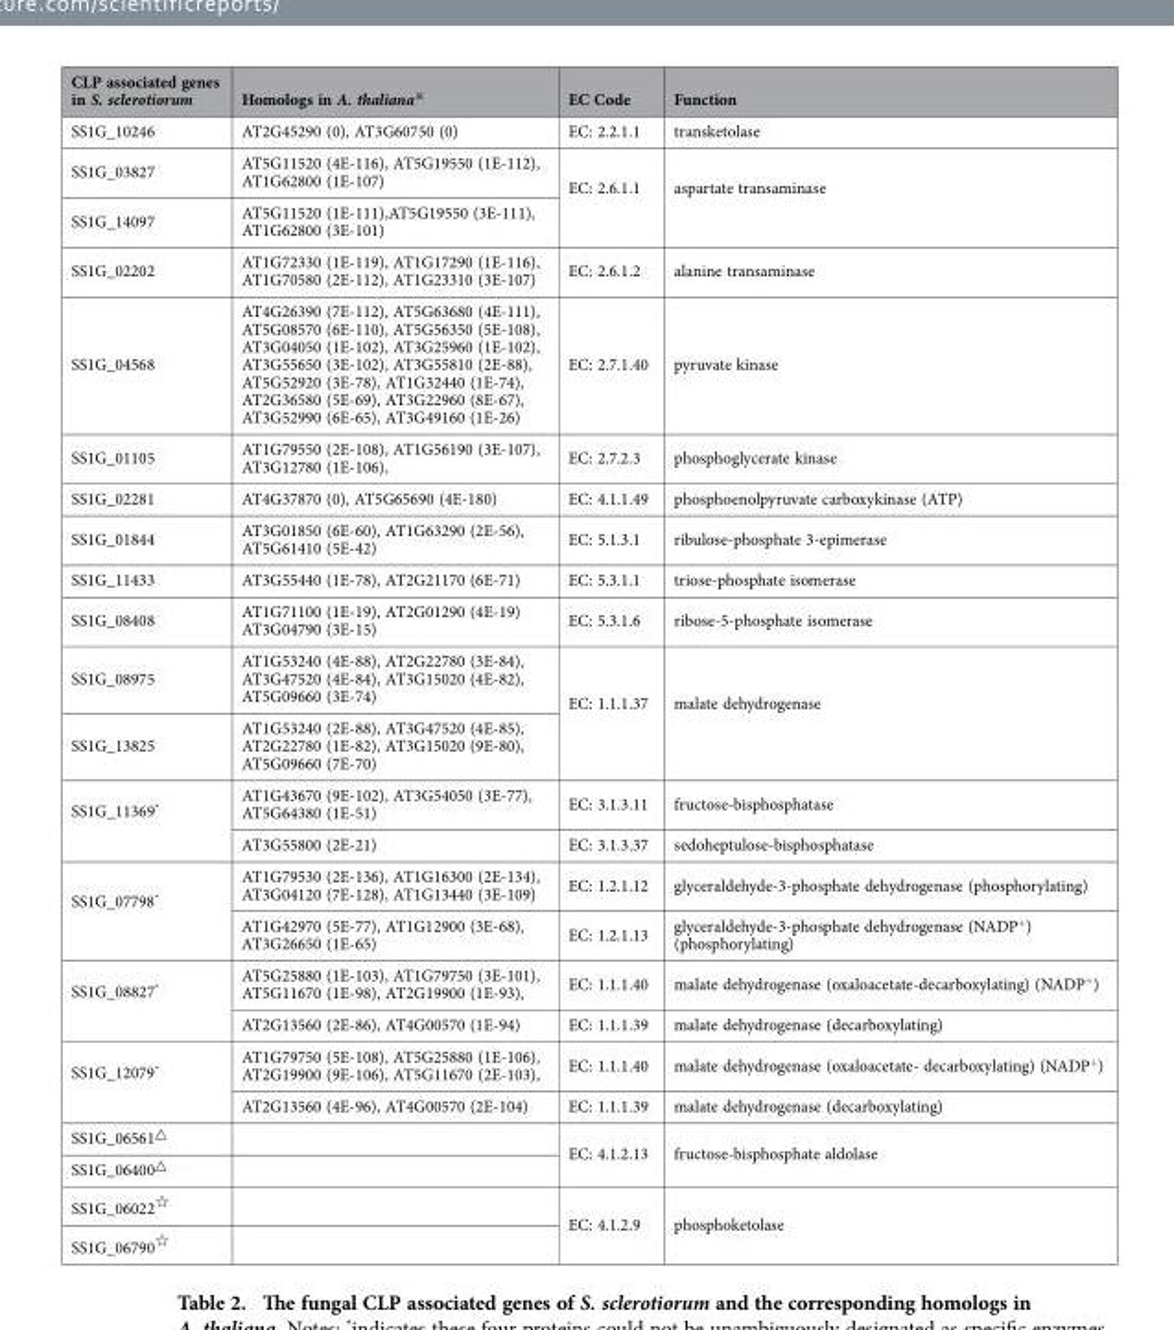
<table><thead><tr><td>CLP associated genes in S. sclerotiorum</td><td>Homologs in A. thaliana※</td><td>EC Code</td><td>Function</td></tr></thead><tbody><tr><td>SS1G_10246</td><td>AT2G45290 (0), AT3G60750 (0)</td><td>EC: 2.2.1.1</td><td>transketolase</td></tr><tr><td>SS1G_03827</td><td>AT5G11520 (4E-116), AT5G19550 (1E-112), AT1G62800 (1E-107)</td><td rowspan="2">EC: 2.6.1.1</td><td rowspan="2">aspartate transaminase</td></tr><tr><td>SS1G_14097</td><td>AT5G11520 (1E-111),AT5G19550 (3E-111), AT1G62800 (3E-101)</td></tr><tr><td>SS1G_02202</td><td>AT1G72330 (1E-119), AT1G17290 (1E-116), AT1G70580 (2E-112), AT1G23310 (3E-107)</td><td>EC: 2.6.1.2</td><td>alanine transaminase</td></tr><tr><td>SS1G_04568</td><td>AT4G26390 (7E-112), AT5G63680 (4E-111), AT5G08570 (6E-110), AT5G56350 (5E-108), AT3G04050 (1E-102), AT3G25960 (1E-102), AT3G55650 (3E-102), AT3G55810 (2E-88), AT5G52920 (3E-78), AT1G32440 (1E-74), AT2G36580 (5E-69), AT3G22960 (8E-67), AT3G52990 (6E-65), AT3G49160 (1E-26)</td><td>EC: 2.7.1.40</td><td>pyruvate kinase</td></tr><tr><td>SS1G_01105</td><td>AT1G79550 (2E-108), AT1G56190 (3E-107), AT3G12780 (1E-106),</td><td>EC: 2.7.2.3</td><td>phosphoglycerate kinase</td></tr><tr><td>SS1G_02281</td><td>AT4G37870 (0), AT5G65690 (4E-180)</td><td>EC: 4.1.1.49</td><td>phosphoenolpyruvate carboxykinase (ATP)</td></tr><tr><td>SS1G_01844</td><td>AT3G01850 (6E-60), AT1G63290 (2E-56), AT5G61410 (5E-42)</td><td>EC: 5.1.3.1</td><td>ribulose-phosphate 3-epimerase</td></tr><tr><td>SS1G_11433</td><td>AT3G55440 (1E-78), AT2G21170 (6E-71)</td><td>EC: 5.3.1.1</td><td>triose-phosphate isomerase</td></tr><tr><td>SS1G_08408</td><td>AT1G71100 (1E-19), AT2G01290 (4E-19) AT3G04790 (3E-15)</td><td>EC: 5.3.1.6</td><td>ribose-5-phosphate isomerase</td></tr><tr><td>SS1G_08975</td><td>AT1G53240 (4E-88), AT2G22780 (3E-84), AT3G47520 (4E-84), AT3G15020 (4E-82), AT5G09660 (3E-74)</td><td rowspan="2">EC: 1.1.1.37</td><td rowspan="2">malate dehydrogenase</td></tr><tr><td>SS1G_13825</td><td>AT1G53240 (2E-88), AT3G47520 (4E-85), AT2G22780 (1E-82), AT3G15020 (9E-80), AT5G09660 (7E-70)</td></tr><tr><td rowspan="2">SS1G_11369*</td><td>AT1G43670 (9E-102), AT3G54050 (3E-77), AT5G64380 (1E-51)</td><td>EC: 3.1.3.11</td><td>fructose-bisphosphatase</td></tr><tr><td>AT3G55800 (2E-21)</td><td>EC: 3.1.3.37</td><td>sedoheptulose-bisphosphatase</td></tr><tr><td rowspan="2">SS1G_07798*</td><td>AT1G79530 (2E-136), AT1G16300 (2E-134), AT3G04120 (7E-128), AT1G13440 (3E-109)</td><td>EC: 1.2.1.12</td><td>glyceraldehyde-3-phosphate dehydrogenase (phosphorylating)</td></tr><tr><td>AT1G42970 (5E-77), AT1G12900 (3E-68), AT3G26650 (1E-65)</td><td>EC: 1.2.1.13</td><td>glyceraldehyde-3-phosphate dehydrogenase (NADP<sup>+</sup>) (phosphorylating)</td></tr><tr><td rowspan="2">SS1G_08827*</td><td>AT5G25880 (1E-103), AT1G79750 (3E-101), AT5G11670 (1E-98), AT2G19900 (1E-93),</td><td>EC: 1.1.1.40</td><td>malate dehydrogenase (oxaloacetate-decarboxylating) (NADP<sup>+</sup>)</td></tr><tr><td>AT2G13560 (2E-86), AT4G00570 (1E-94)</td><td>EC: 1.1.1.39</td><td>malate dehydrogenase (decarboxylating)</td></tr><tr><td rowspan="2">SS1G_12079*</td><td>AT1G79750 (5E-108), AT5G25880 (1E-106), AT2G19900 (9E-106), AT5G11670 (2E-103),</td><td>EC: 1.1.1.40</td><td>malate dehydrogenase (oxaloacetate- decarboxylating) (NADP<sup>+</sup>)</td></tr><tr><td>AT2G13560 (4E-96), AT4G00570 (2E-104)</td><td>EC: 1.1.1.39</td><td>malate dehydrogenase (decarboxylating)</td></tr><tr><td colspan="2">SS1G_06561△</td><td rowspan="2">EC: 4.1.2.13</td><td rowspan="2">fructose-bisphosphate aldolase</td></tr><tr><td colspan="2">SS1G_06400△</td></tr><tr><td colspan="2">SS1G_06022☆</td><td rowspan="2">EC: 4.1.2.9</td><td rowspan="2">phosphoketolase</td></tr><tr><td>SS1G_06790☆</td><td></td></tr></tbody></table>